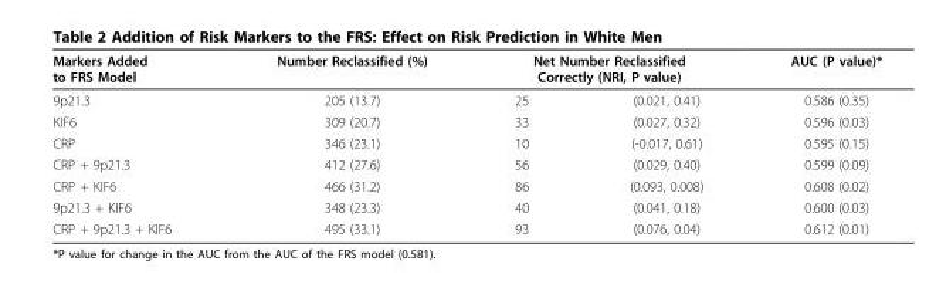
<table><thead><tr><td rowspan="2">Markers Added to FRS Model 9p21.3</td><td rowspan="2">Number Reclassified (%) 205 (13.7)</td><td colspan="2">Net Number Reclassified Correctly (NRI, P value)</td><td rowspan="2">AUC (P value)* 0.586 (0.35)</td></tr><tr><td>25</td><td>(0.021, 0.41)</td></tr></thead><tbody><tr><td>KIF6</td><td>309 (20.7)</td><td>33</td><td>(0.027, 0.32)</td><td>0.596 (0.03)</td></tr><tr><td>CRP</td><td>346 (23.1)</td><td>10</td><td>(-0.017, 0.61)</td><td>0.595 (0.15)</td></tr><tr><td>CRP + 9p21.3</td><td>412 (27.6)</td><td>56</td><td>(0.029, 0.40)</td><td>0.599 (0.09)</td></tr><tr><td>CRP + KIF6</td><td>466 (31.2)</td><td>86</td><td>(0.093, 0.008)</td><td>0.608 (0.02)</td></tr><tr><td>9p21.3 + KIF6</td><td>348 (23.3)</td><td>40</td><td>(0.041, 0.18)</td><td>0.600 (0.03)</td></tr><tr><td>CRP + 9p21.3 + KIF6</td><td>495 (33.1)</td><td>93</td><td>(0.076, 0.04)</td><td>0.612 (0.01)</td></tr></tbody></table>